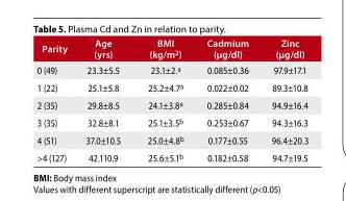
<table><thead><tr><td>Parity</td><td>Age (yrs)</td><td>BMI (kg/m<sup>2</sup>)</td><td>Cadmium (µg/dl)</td><td>Zinc (µg/dl)</td></tr></thead><tbody><tr><td>0 (49)</td><td>23.3±5.5</td><td>23.1±2.<sup>a</sup></td><td>0.085±0.36</td><td>97.9±17.1</td></tr><tr><td>1 (22)</td><td>25.1±5.8</td><td>25.2±4.7<sup>a</sup></td><td>0.022±0.02</td><td>89.3±10.8</td></tr><tr><td>2 (35)</td><td>29.8±8.5</td><td>24.1±3.8<sup>a</sup></td><td>0.285±0.84</td><td>94.9±16.4</td></tr><tr><td>3 (35)</td><td>32.8±8.1</td><td>25.1±3.5<sup>b</sup></td><td>0.253±0.67</td><td>94.3±16.3</td></tr><tr><td>4 (51)</td><td>37.0±10.5</td><td>25.0±4.8<sup>b</sup></td><td>0.177±0.55</td><td>96.4±20.3</td></tr><tr><td>&gt;4 (127)</td><td>42.110.9</td><td>25.6±5.1<sup>b</sup></td><td>0.182±0.58</td><td>94.7±19.5</td></tr></tbody></table>